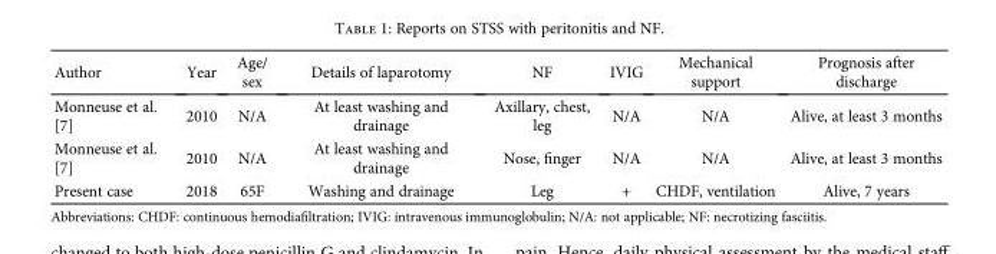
<table><thead><tr><td>Author</td><td>Year</td><td>Age/ sex</td><td>Details of laparotomy</td><td>NF</td><td>IVIG</td><td>Mechanical support</td><td>Prognosis after discharge</td></tr></thead><tbody><tr><td>Monneuse et al. [7]</td><td>2010</td><td>N/A</td><td>At least washing and drainage</td><td>Axillary, chest, leg</td><td>N/A</td><td>N/A</td><td>Alive, at least 3 months</td></tr><tr><td>Monneuse et al. [7]</td><td>2010</td><td>N/A</td><td>At least washing and drainage</td><td>Nose, finger</td><td>N/A</td><td>N/A</td><td>Alive, at least 3 months</td></tr><tr><td>Present case</td><td>2018</td><td>65F</td><td>Washing and drainage</td><td>Leg</td><td>+</td><td>CHDF, ventilation</td><td>Alive, 7 years</td></tr></tbody></table>